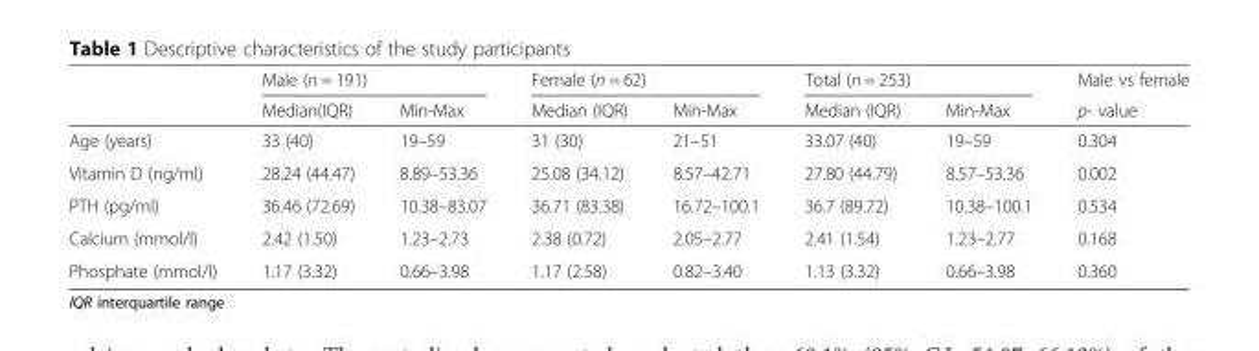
<table><thead><tr><td rowspan="2"></td><td colspan="2">Male (n = 191)</td><td colspan="2">Female (n = 62)</td><td colspan="2">Total (n = 253)</td><td rowspan="2">Male vs female p- value</td></tr><tr><td>Median(IQR)</td><td>Min-Max</td><td>Median (IQR)</td><td>Min-Max</td><td>Median (IQR)</td><td>Min-Max</td></tr></thead><tbody><tr><td>Age (years)</td><td>33 (40)</td><td>19–59</td><td>31 (30)</td><td>21–51</td><td>33.07 (40)</td><td>19–59</td><td>0.304</td></tr><tr><td>Vitamin D (ng/ml)</td><td>28.24 (44.47)</td><td>8.89–53.36</td><td>25.08 (34.12)</td><td>8.57–42.71</td><td>27.80 (44.79)</td><td>8.57–53.36</td><td>0.002</td></tr><tr><td>PTH (pg/ml)</td><td>36.46 (72.69)</td><td>10.38–83.07</td><td>36.71 (83.38)</td><td>16.72–100.1</td><td>36.7 (89.72)</td><td>10.38–100.1</td><td>0.534</td></tr><tr><td>Calcium (mmol/l)</td><td>2.42 (1.50)</td><td>1.23–2.73</td><td>2.38 (0.72)</td><td>2.05–2.77</td><td>2.41 (1.54)</td><td>1.23–2.77</td><td>0.168</td></tr><tr><td>Phosphate (mmol/l)</td><td>1.17 (3.32)</td><td>0.66–3.98</td><td>1.17 (2.58)</td><td>0.82–3.40</td><td>1.13 (3.32)</td><td>0.66–3.98</td><td>0.360</td></tr></tbody></table>